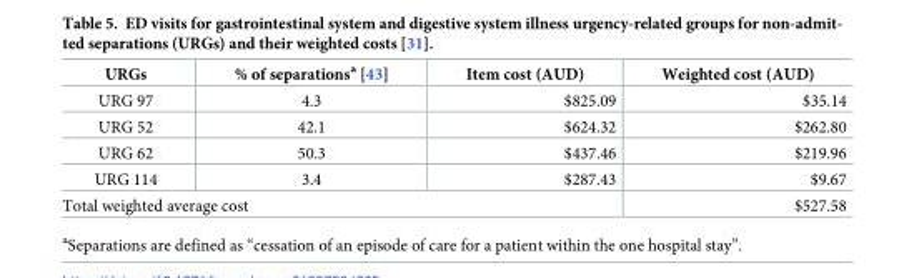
<table><thead><tr><td>URGs</td><td>% of separations<sup>a</sup> [43]</td><td>Item cost (AUD)</td><td>Weighted cost (AUD)</td></tr></thead><tbody><tr><td>URG 97</td><td>4.3</td><td>$825.09</td><td>$35.14</td></tr><tr><td>URG 52</td><td>42.1</td><td>$624.32</td><td>$262.80</td></tr><tr><td>URG 62</td><td>50.3</td><td>$437.46</td><td>$219.96</td></tr><tr><td>URG 114</td><td>3.4</td><td>$287.43</td><td>$9.67</td></tr><tr><td colspan="3">Total weighted average cost</td><td>$527.58</td></tr></tbody></table>